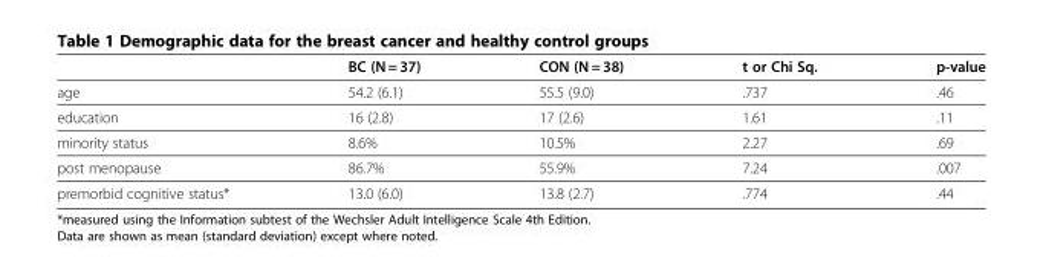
<table><thead><tr><td></td><td>BC (N = 37)</td><td>CON (N = 38)</td><td>t or Chi Sq.</td><td>p-value</td></tr></thead><tbody><tr><td>age</td><td>54.2 (6.1)</td><td>55.5 (9.0)</td><td>.737</td><td>.46</td></tr><tr><td>education</td><td>16 (2.8)</td><td>17 (2.6)</td><td>1.61</td><td>.11</td></tr><tr><td>minority status</td><td>8.6%</td><td>10.5%</td><td>2.27</td><td>.69</td></tr><tr><td>post menopause</td><td>86.7%</td><td>55.9%</td><td>7.24</td><td>.007</td></tr><tr><td>premorbid cognitive status*</td><td>13.0 (6.0)</td><td>13.8 (2.7)</td><td>.774</td><td>.44</td></tr></tbody></table>